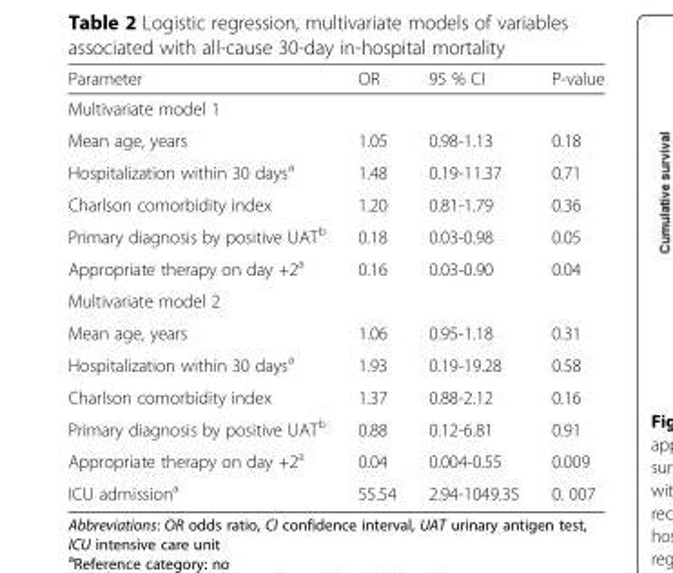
<table><thead><tr><td>Parameter</td><td>OR</td><td>95 % CI</td><td>P-value</td></tr></thead><tbody><tr><td colspan="4">Multivariate model 1</td></tr><tr><td>Mean age, years</td><td>1.05</td><td>0.98-1.13</td><td>0.18</td></tr><tr><td>Hospitalization within 30 days<sup>a</sup></td><td>1.48</td><td>0.19-11.37</td><td>0.71</td></tr><tr><td>Charlson comorbidity index</td><td>1.20</td><td>0.81-1.79</td><td>0.36</td></tr><tr><td>Primary diagnosis by positive UAT<sup>b</sup></td><td>0.18</td><td>0.03-0.98</td><td>0.05</td></tr><tr><td>Appropriate therapy on day +2<sup>a</sup></td><td>0.16</td><td>0.03-0.90</td><td>0.04</td></tr><tr><td colspan="4">Multivariate model 2</td></tr><tr><td>Mean age, years</td><td>1.06</td><td>0.95-1.18</td><td>0.31</td></tr><tr><td>Hospitalization within 30 days<sup>a</sup></td><td>1.93</td><td>0.19-19.28</td><td>0.58</td></tr><tr><td>Charlson comorbidity index</td><td>1.37</td><td>0.88-2.12</td><td>0.16</td></tr><tr><td>Primary diagnosis by positive UAT<sup>b</sup></td><td>0.88</td><td>0.12-6.81</td><td>0.91</td></tr><tr><td>Appropriate therapy on day +2<sup>a</sup></td><td>0.04</td><td>0.004-0.55</td><td>0.009</td></tr><tr><td>ICU admission<sup>a</sup></td><td>55.54</td><td>2.94-1049.35</td><td>0. 007</td></tr></tbody></table>